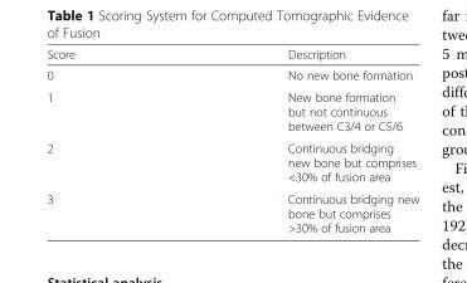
<table><thead><tr><td>Score</td><td>Description</td></tr></thead><tbody><tr><td>0</td><td>No new bone formation</td></tr><tr><td>1</td><td>New bone formation but not continuous between C3/4 or C5/6</td></tr><tr><td>2</td><td>Continuous bridging new bone but comprises &lt;30% of fusion area</td></tr><tr><td>3</td><td>Continuous bridging new bone but comprises &gt;30% of fusion area</td></tr></tbody></table>